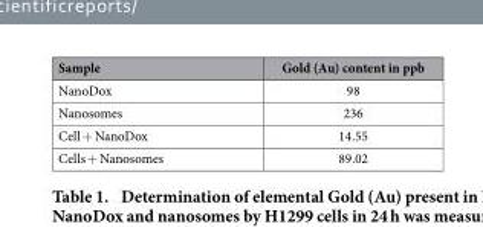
<table><thead><tr><td>Sample</td><td>Gold (Au) content in ppb</td></tr></thead><tbody><tr><td>NanoDox</td><td>98</td></tr><tr><td>Nanosomes</td><td>236</td></tr><tr><td>Cell + NanoDox</td><td>14.55</td></tr><tr><td>Cells + Nanosomes</td><td>89.02</td></tr></tbody></table>